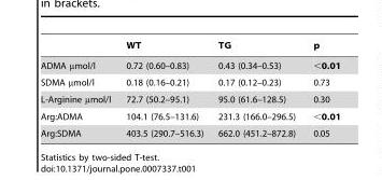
<table><thead><tr><td></td><td>WT</td><td>TG</td><td>p</td></tr></thead><tbody><tr><td>ADMA µmol/l</td><td>0.72 (0.60–0.83)</td><td>0.43 (0.34–0.53)</td><td>&lt;0.01</td></tr><tr><td>SDMA µmol/l</td><td>0.18 (0.16–0.21)</td><td>0.17 (0.12–0.23)</td><td>0.73</td></tr><tr><td>L-Arginine µmol/l</td><td>72.7 (50.2–95.1)</td><td>95.0 (61.6–128.5)</td><td>0.30</td></tr><tr><td>Arg:ADMA</td><td>104.1 (76.5–131.6)</td><td>231.3 (166.0–296.5)</td><td>&lt;0.01</td></tr><tr><td>Arg:SDMA</td><td>403.5 (290.7–516.3)</td><td>662.0 (451.2–872.8)</td><td>0.05</td></tr></tbody></table>